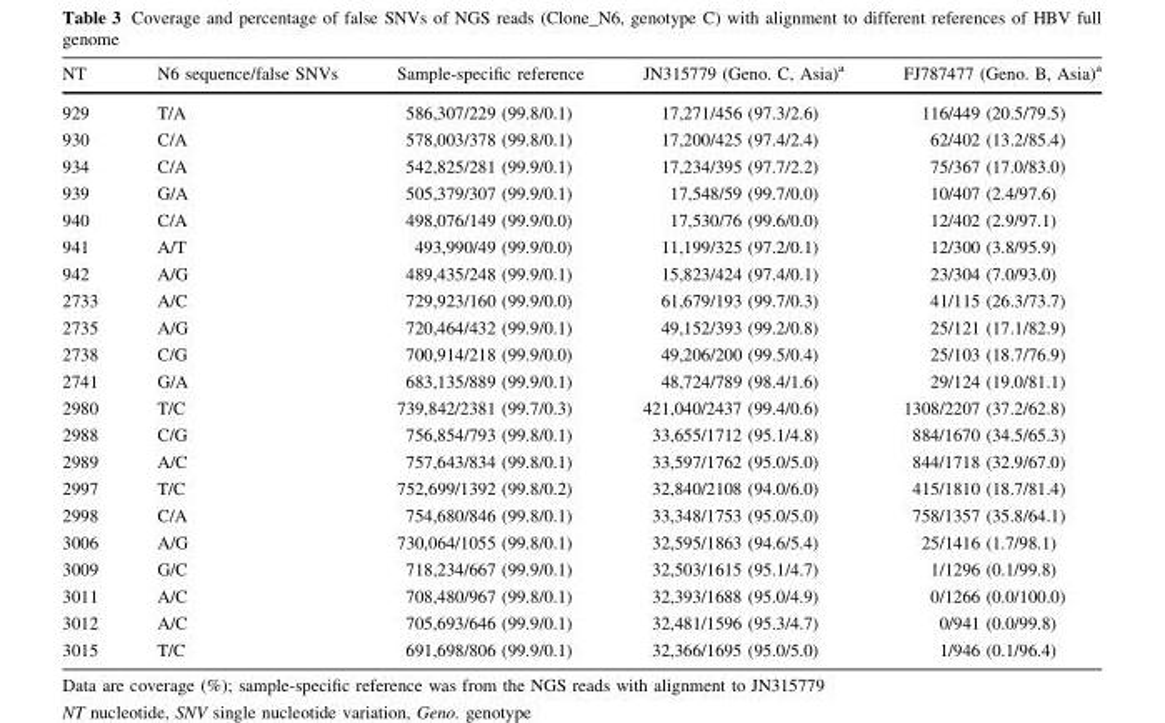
<table><thead><tr><td>NT</td><td>N6 sequence/false SNVs</td><td>Sample-specific reference</td><td>JN315779 (Geno. C, Asia)<sup>a</sup></td><td>FJ787477 (Geno. B, Asia)<sup>a</sup></td></tr></thead><tbody><tr><td>929</td><td>T/A</td><td>586,307/229 (99.8/0.1)</td><td>17,271/456 (97.3/2.6)</td><td>116/449 (20.5/79.5)</td></tr><tr><td>930</td><td>C/A</td><td>578,003/378 (99.8/0.1)</td><td>17,200/425 (97.4/2.4)</td><td>62/402 (13.2/85.4)</td></tr><tr><td>934</td><td>C/A</td><td>542,825/281 (99.9/0.1)</td><td>17,234/395 (97.7/2.2)</td><td>75/367 (17.0/83.0)</td></tr><tr><td>939</td><td>G/A</td><td>505,379/307 (99.9/0.1)</td><td>17,548/59 (99.7/0.0)</td><td>10/407 (2.4/97.6)</td></tr><tr><td>940</td><td>C/A</td><td>498,076/149 (99.9/0.0)</td><td>17,530/76 (99.6/0.0)</td><td>12/402 (2.9/97.1)</td></tr><tr><td>941</td><td>A/T</td><td>493,990/49 (99.9/0.0)</td><td>11,199/325 (97.2/0.1)</td><td>12/300 (3.8/95.9)</td></tr><tr><td>942</td><td>A/G</td><td>489,435/248 (99.9/0.1)</td><td>15,823/424 (97.4/0.1)</td><td>23/304 (7.0/93.0)</td></tr><tr><td>2733</td><td>A/C</td><td>729,923/160 (99.9/0.0)</td><td>61,679/193 (99.7/0.3)</td><td>41/115 (26.3/73.7)</td></tr><tr><td>2735</td><td>A/G</td><td>720,464/432 (99.9/0.1)</td><td>49,152/393 (99.2/0.8)</td><td>25/121 (17.1/82.9)</td></tr><tr><td>2738</td><td>C/G</td><td>700,914/218 (99.9/0.0)</td><td>49,206/200 (99.5/0.4)</td><td>25/103 (18.7/76.9)</td></tr><tr><td>2741</td><td>G/A</td><td>683,135/889 (99.9/0.1)</td><td>48,724/789 (98.4/1.6)</td><td>29/124 (19.0/81.1)</td></tr><tr><td>2980</td><td>T/C</td><td>739,842/2381 (99.7/0.3)</td><td>421,040/2437 (99.4/0.6)</td><td>1308/2207 (37.2/62.8)</td></tr><tr><td>2988</td><td>C/G</td><td>756,854/793 (99.8/0.1)</td><td>33,655/1712 (95.1/4.8)</td><td>884/1670 (34.5/65.3)</td></tr><tr><td>2989</td><td>A/C</td><td>757,643/834 (99.8/0.1)</td><td>33,597/1762 (95.0/5.0)</td><td>844/1718 (32.9/67.0)</td></tr><tr><td>2997</td><td>T/C</td><td>752,699/1392 (99.8/0.2)</td><td>32,840/2108 (94.0/6.0)</td><td>415/1810 (18.7/81.4)</td></tr><tr><td>2998</td><td>C/A</td><td>754,680/846 (99.8/0.1)</td><td>33,348/1753 (95.0/5.0)</td><td>758/1357 (35.8/64.1)</td></tr><tr><td>3006</td><td>A/G</td><td>730,064/1055 (99.8/0.1)</td><td>32,595/1863 (94.6/5.4)</td><td>25/1416 (1.7/98.1)</td></tr><tr><td>3009</td><td>G/C</td><td>718,234/667 (99.9/0.1)</td><td>32,503/1615 (95.1/4.7)</td><td>1/1296 (0.1/99.8)</td></tr><tr><td>3011</td><td>A/C</td><td>708,480/967 (99.8/0.1)</td><td>32,393/1688 (95.0/4.9)</td><td>0/1266 (0.0/100.0)</td></tr><tr><td>3012</td><td>A/C</td><td>705,693/646 (99.9/0.1)</td><td>32,481/1596 (95.3/4.7)</td><td>0/941 (0.0/99.8)</td></tr><tr><td>3015</td><td>T/C</td><td>691,698/806 (99.9/0.1)</td><td>32,366/1695 (95.0/5.0)</td><td>1/946 (0.1/96.4)</td></tr></tbody></table>